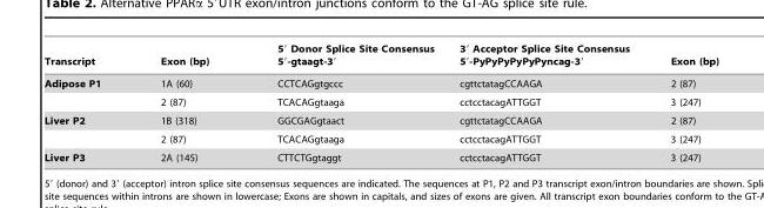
<table><thead><tr><td>Transcript</td><td>Exon (bp)</td><td>5′ Donor Splice Site Consensus 5′-gtaagt-3′</td><td>3′ Acceptor Splice Site Consensus 5′-PyPyPyPyPyPyncag-3′</td><td>Exon (bp)</td></tr></thead><tbody><tr><td rowspan="2">Adipose P1</td><td>1A (60)</td><td>CCTCAGgtgccc</td><td>cgttctatagCCAAGA</td><td>2 (87)</td></tr><tr><td>2 (87)</td><td>TCACAGgtaaga</td><td>cctcctacagATTGGT</td><td>3 (247)</td></tr><tr><td rowspan="2">Liver P2</td><td>1B (318)</td><td>GGCGAGgtaact</td><td>cgttctatagCCAAGA</td><td>2 (87)</td></tr><tr><td>2 (87)</td><td>TCACAGgtaaga</td><td>cctcctacagATTGGT</td><td>3 (247)</td></tr><tr><td>Liver P3</td><td>2A (145)</td><td>CTTCTGgtaggt</td><td>cctcctacagATTGGT</td><td>3 (247)</td></tr></tbody></table>